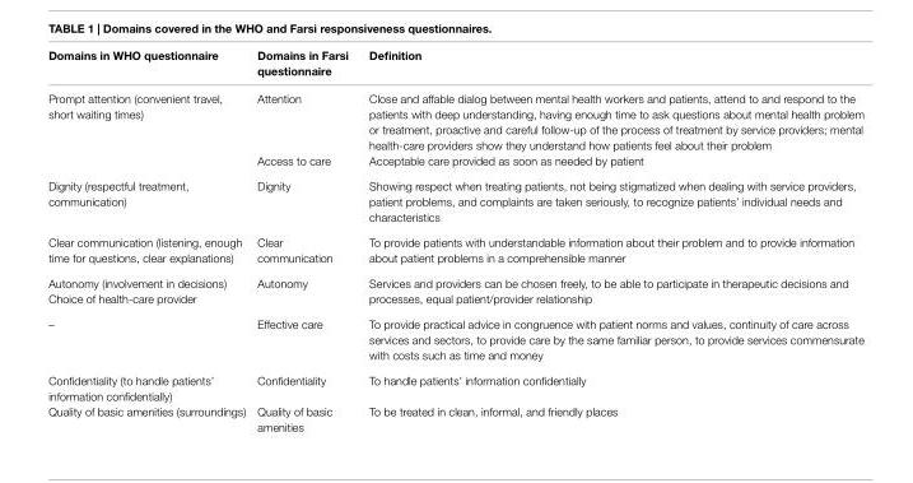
<table><thead><tr><td>Domains in WhO questionnaire</td><td>Domains in Farsi questionnaire</td><td>Definition</td></tr></thead><tbody><tr><td rowspan="2">Prompt attention (convenient travel, short waiting times)</td><td>Attention</td><td>Close and affable dialog between mental health workers and patients, attend to and respond to the patients with deep understanding, having enough time to ask questions about mental health problem or treatment, proactive and careful follow-up of the process of treatment by service providers; mental health-care providers show they understand how patients feel about their problem</td></tr><tr><td>Access to care</td><td>Acceptable care provided as soon as needed by patient</td></tr><tr><td>Dignity (respectful treatment, communication)</td><td>Dignity</td><td>Showing respect when treating patients, not being stigmatized when dealing with service providers, patient problems, and complaints are taken seriously, to recognize patients’ individual needs and characteristics</td></tr><tr><td>Clear communication (listening, enough time for questions, clear explanations)</td><td>Clear communication</td><td>To provide patients with understandable information about their problem and to provide information about patient problems in a comprehensible manner</td></tr><tr><td>Autonomy (involvement in decisions)</td><td rowspan="2">Autonomy</td><td rowspan="2">Services and providers can be chosen freely, to be able to participate in therapeutic decisions and processes, equal patient/provider relationship</td></tr><tr><td>Choice of health-care provider</td></tr><tr><td>–</td><td>Effective care</td><td>To provide practical advice in congruence with patient norms and values, continuity of care across services and sectors, to provide care by the same familiar person, to provide services commensurate with costs such as time and money</td></tr><tr><td>Confidentiality (to handle patients’ information confidentially)</td><td>Confidentiality</td><td>To handle patients’ information confidentially</td></tr><tr><td>Quality of basic amenities (surroundings)</td><td>Quality of basic amenities</td><td>To be treated in clean, informal, and friendly places</td></tr></tbody></table>